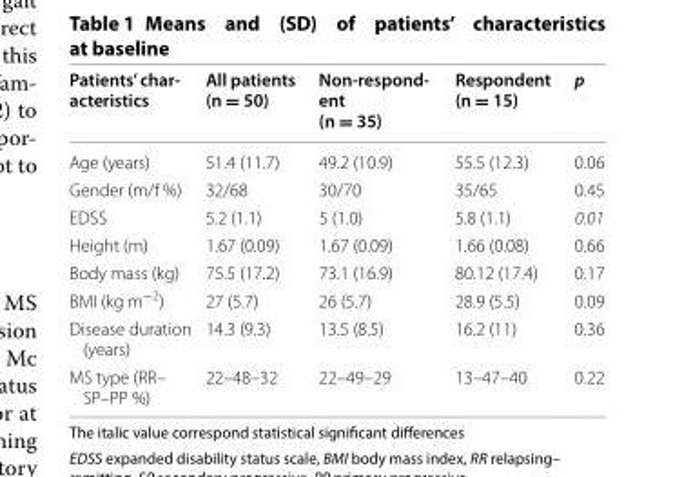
<table><thead><tr><td>Patients’ char- acteristics</td><td>All patients (n = 50)</td><td>Non-respond- ent (n = 35)</td><td>Respondent (n = 15)</td><td>p</td></tr></thead><tbody><tr><td>Age (years)</td><td>51.4 (11.7)</td><td>49.2 (10.9)</td><td>55.5 (12.3)</td><td>0.06</td></tr><tr><td>Gender (m/f %)</td><td>32/68</td><td>30/70</td><td>35/65</td><td>0.45</td></tr><tr><td>EDSS</td><td>5.2 (1.1)</td><td>5 (1.0)</td><td>5.8 (1.1)</td><td>0.01</td></tr><tr><td>Height (m)</td><td>1.67 (0.09)</td><td>1.67 (0.09)</td><td>1.66 (0.08)</td><td>0.66</td></tr><tr><td>Body mass (kg)</td><td>75.5 (17.2)</td><td>73.1 (16.9)</td><td>80.12 (17.4)</td><td>0.17</td></tr><tr><td>BMI (kg m<sup>−2</sup>)</td><td>27 (5.7)</td><td>26 (5.7)</td><td>28.9 (5.5)</td><td>0.09</td></tr><tr><td>Disease duration (years)</td><td>14.3 (9.3)</td><td>13.5 (8.5)</td><td>16.2 (11)</td><td>0.36</td></tr><tr><td>MS type (RR– SP–PP %)</td><td>22–48–32</td><td>22–49–29</td><td>13–47–40</td><td>0.22</td></tr></tbody></table>